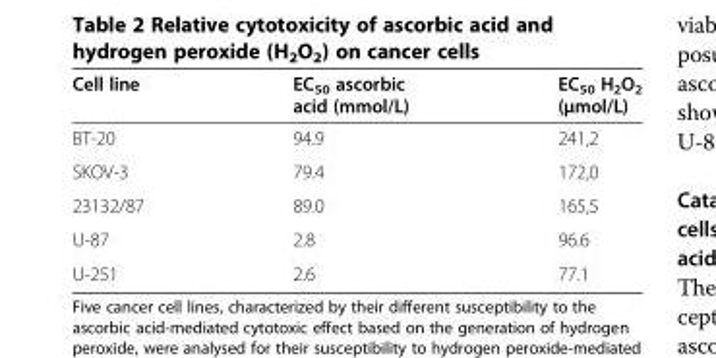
<table><thead><tr><td>Cell line</td><td>EC<sub>50</sub> ascorbic acid (mmol/L)</td><td>EC<sub>50</sub> H<sub>2</sub>O<sub>2</sub> (μmol/L)</td></tr></thead><tbody><tr><td>BT-20</td><td>94.9</td><td>241,2</td></tr><tr><td>SKOV-3</td><td>79.4</td><td>172,0</td></tr><tr><td>23132/87</td><td>89.0</td><td>165,5</td></tr><tr><td>U-87</td><td>2.8</td><td>96.6</td></tr><tr><td>U-251</td><td>2.6</td><td>77.1</td></tr></tbody></table>